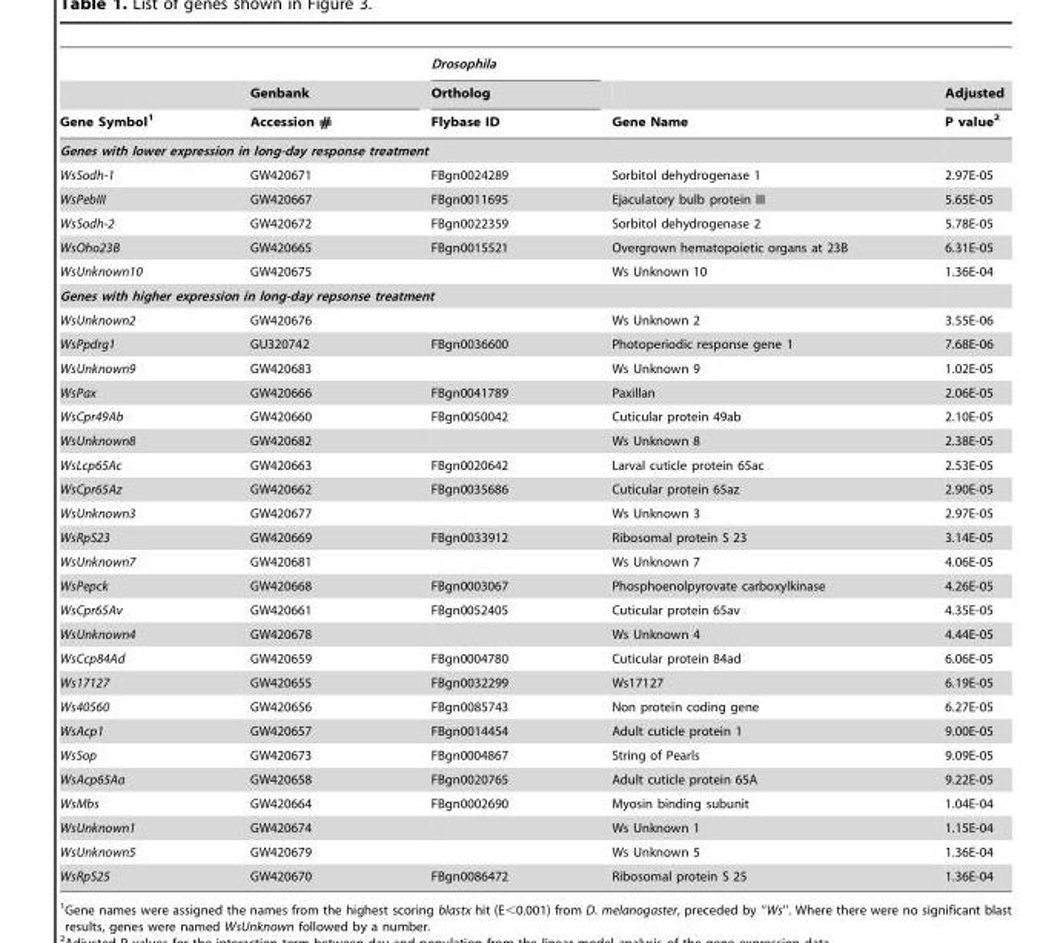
<table><thead><tr><td rowspan="3">Gene Symbol<sup>1</sup></td><td rowspan="3">Genbank Accession #</td><td rowspan="3">Drosophila Ortholog Flybase ID</td><td rowspan="3">Gene Name</td><td rowspan="3">Adjusted P value<sup>2</sup></td></tr><tr></tr><tr></tr></thead><tbody><tr><td colspan="5">Genes with lower expression in long-day response treatment</td></tr><tr><td>WsSodh-1</td><td>GW420671</td><td>FBgn0024289</td><td>Sorbitol dehydrogenase 1</td><td>2.97E-05</td></tr><tr><td>WsPebIII</td><td>GW420667</td><td>FBgn0011695</td><td>Ejaculatory bulb protein III</td><td>5.65E-05</td></tr><tr><td>WsSodh-2</td><td>GW420672</td><td>FBgn0022359</td><td>Sorbitol dehydrogenase 2</td><td>5.78E-05</td></tr><tr><td>WsOho23B</td><td>GW420665</td><td>FBgn0015521</td><td>Overgrown hematopoietic organs at 23B</td><td>6.31E-05</td></tr><tr><td>WsUnknown10</td><td>GW420675</td><td></td><td>Ws Unknown 10</td><td>1.36E-04</td></tr><tr><td colspan="5">Genes with higher expression in long-day repsonse treatment</td></tr><tr><td>WsUnknown2</td><td>GW420676</td><td></td><td>Ws Unknown 2</td><td>3.55E-06</td></tr><tr><td>WsPpdrg1</td><td>GU320742</td><td>FBgn0036600</td><td>Photoperiodic response gene 1</td><td>7.68E-06</td></tr><tr><td>WsUnknown9</td><td>GW420683</td><td></td><td>Ws Unknown 9</td><td>1.02E-05</td></tr><tr><td>WsPax</td><td>GW420666</td><td>FBgn0041789</td><td>Paxillan</td><td>2.06E-05</td></tr><tr><td>WsCpr49Ab</td><td>GW420660</td><td>FBgn0050042</td><td>Cuticular protein 49ab</td><td>2.10E-05</td></tr><tr><td>WsUnknown8</td><td>GW420682</td><td></td><td>Ws Unknown 8</td><td>2.38E-05</td></tr><tr><td>WsLcp65Ac</td><td>GW420663</td><td>FBgn0020642</td><td>Larval cuticle protein 65ac</td><td>2.53E-05</td></tr><tr><td>WsCpr65Az</td><td>GW420662</td><td>FBgn0035686</td><td>Cuticular protein 65az</td><td>2.90E-05</td></tr><tr><td>WsUnknown3</td><td>GW420677</td><td></td><td>Ws Unknown 3</td><td>2.97E-05</td></tr><tr><td>WsRpS23</td><td>GW420669</td><td>FBgn0033912</td><td>Ribosomal protein S 23</td><td>3.14E-05</td></tr><tr><td>WsUnknown7</td><td>GW420681</td><td></td><td>Ws Unknown 7</td><td>4.06E-05</td></tr><tr><td>WsPepck</td><td>GW420668</td><td>FBgn0003067</td><td>Phosphoenolpyrovate carboxylkinase</td><td>4.26E-05</td></tr><tr><td>WsCpr65Av</td><td>GW420661</td><td>FBgn0052405</td><td>Cuticular protein 65av</td><td>4.35E-05</td></tr><tr><td>WsUnknown4</td><td>GW420678</td><td></td><td>Ws Unknown 4</td><td>4.44E-05</td></tr><tr><td>WsCcp84Ad</td><td>GW420659</td><td>FBgn0004780</td><td>Cuticular protein 84ad</td><td>6.06E-05</td></tr><tr><td>Ws17127</td><td>GW420655</td><td>FBgn0032299</td><td>Ws17127</td><td>6.19E-05</td></tr><tr><td>Ws40560</td><td>GW420656</td><td>FBgn0085743</td><td>Non protein coding gene</td><td>6.27E-05</td></tr><tr><td>WsAcp1</td><td>GW420657</td><td>FBgn0014454</td><td>Adult cuticle protein 1</td><td>9.00E-05</td></tr><tr><td>WsSop</td><td>GW420673</td><td>FBgn0004867</td><td>String of Pearls</td><td>9.09E-05</td></tr><tr><td>WsAcp65Aa</td><td>GW420658</td><td>FBgn0020765</td><td>Adult cuticle protein 65A</td><td>9.22E-05</td></tr><tr><td>WsMbs</td><td>GW420664</td><td>FBgn0002690</td><td>Myosin binding subunit</td><td>1.04E-04</td></tr><tr><td>WsUnknown1</td><td>GW420674</td><td></td><td>Ws Unknown 1</td><td>1.15E-04</td></tr><tr><td>WsUnknown5</td><td>GW420679</td><td></td><td>Ws Unknown 5</td><td>1.36E-04</td></tr><tr><td>WsRpS25</td><td>GW420670</td><td>FBgn0086472</td><td>Ribosomal protein S 25</td><td>1.36E-04</td></tr></tbody></table>